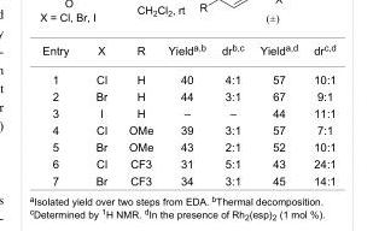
<table><tbody><tr><td>Entry</td><td>X</td><td>R</td><td>Yield<sup>a,b</sup></td><td>dr<sup>b,c</sup></td><td>Yield<sup>a,d</sup></td><td>dr<sup>c,d</sup></td></tr><tr><td>1</td><td>Cl</td><td>H</td><td>40</td><td>4:1</td><td>57</td><td>10:1</td></tr><tr><td>2</td><td>Br</td><td>H</td><td>44</td><td>3:1</td><td>67</td><td>9:1</td></tr><tr><td>3</td><td>I</td><td>H</td><td>–</td><td>–</td><td>44</td><td>11:1</td></tr><tr><td>4</td><td>Cl</td><td>OMe</td><td>39</td><td>3:1</td><td>57</td><td>7:1</td></tr><tr><td>5</td><td>Br</td><td>OMe</td><td>43</td><td>2:1</td><td>52</td><td>10:1</td></tr><tr><td>6</td><td>Cl</td><td>CF3</td><td>31</td><td>5:1</td><td>43</td><td>24:1</td></tr><tr><td>7</td><td>Br</td><td>CF3</td><td>34</td><td>3:1</td><td>45</td><td>14:1</td></tr></tbody></table>